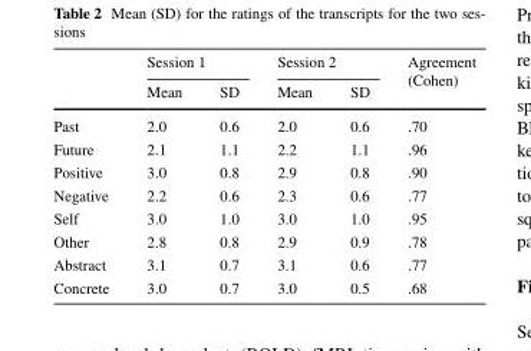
<table><thead><tr><td rowspan="2"></td><td colspan="2">Session 1</td><td colspan="2">Session 2</td><td rowspan="2">Agreement (Cohen)</td></tr><tr><td>Mean</td><td>SD</td><td>Mean</td><td>SD</td></tr></thead><tbody><tr><td>Past</td><td>2.0</td><td>0.6</td><td>2.0</td><td>0.6</td><td>.70</td></tr><tr><td>Future</td><td>2.1</td><td>1.1</td><td>2.2</td><td>1.1</td><td>.96</td></tr><tr><td>Positive</td><td>3.0</td><td>0.8</td><td>2.9</td><td>0.8</td><td>.90</td></tr><tr><td>Negative</td><td>2.2</td><td>0.6</td><td>2.3</td><td>0.6</td><td>.77</td></tr><tr><td>Self</td><td>3.0</td><td>1.0</td><td>3.0</td><td>1.0</td><td>.95</td></tr><tr><td>Other</td><td>2.8</td><td>0.8</td><td>2.9</td><td>0.9</td><td>.78</td></tr><tr><td>Abstract</td><td>3.1</td><td>0.7</td><td>3.1</td><td>0.6</td><td>.77</td></tr><tr><td>Concrete</td><td>3.0</td><td>0.7</td><td>3.0</td><td>0.5</td><td>.68</td></tr></tbody></table>